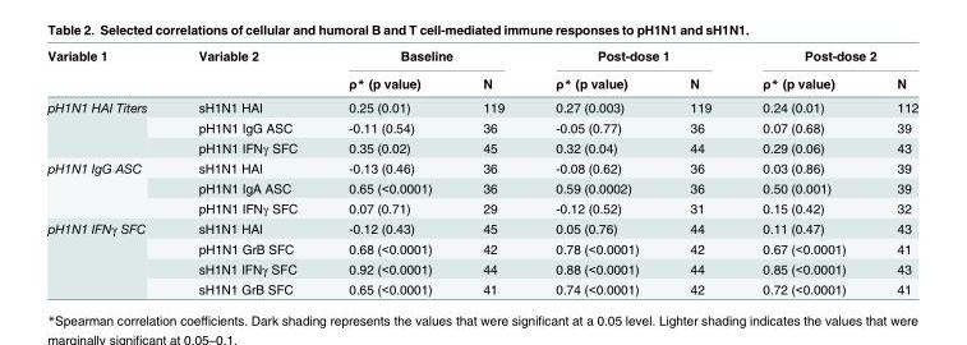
<table><thead><tr><td rowspan="2">Variable 1</td><td rowspan="2">Variable 2</td><td colspan="2">Baseline</td><td colspan="2">Post-dose 1</td><td colspan="2">Post-dose 2</td></tr><tr><td>ρ* (p value)</td><td>N</td><td>ρ* (p value)</td><td>N</td><td>ρ* (p value)</td><td>N</td></tr></thead><tbody><tr><td rowspan="3">pH1N1 HAI Titers</td><td>sH1N1 HAI</td><td>0.25 (0.01)</td><td>119</td><td>0.27 (0.003)</td><td>119</td><td>0.24 (0.01)</td><td>112</td></tr><tr><td>pH1N1 IgG ASC</td><td>-0.11 (0.54)</td><td>36</td><td>-0.05 (0.77)</td><td>36</td><td>0.07 (0.68)</td><td>39</td></tr><tr><td>pH1N1 IFNγ SFC</td><td>0.35 (0.02)</td><td>45</td><td>0.32 (0.04)</td><td>44</td><td>0.29 (0.06)</td><td>43</td></tr><tr><td rowspan="3">pH1N1 IgG ASC</td><td>sH1N1 HAI</td><td>-0.13 (0.46)</td><td>36</td><td>-0.08 (0.62)</td><td>36</td><td>0.03 (0.86)</td><td>39</td></tr><tr><td>pH1N1 IgA ASC</td><td>0.65 (&lt;0.0001)</td><td>36</td><td>0.59 (0.0002)</td><td>36</td><td>0.50 (0.001)</td><td>39</td></tr><tr><td>pH1N1 IFNγ SFC</td><td>0.07 (0.71)</td><td>29</td><td>-0.12 (0.52)</td><td>31</td><td>0.15 (0.42)</td><td>32</td></tr><tr><td rowspan="4">pH1N1 IFNγ SFC</td><td>sH1N1 HAI</td><td>-0.12 (0.43)</td><td>45</td><td>0.05 (0.76)</td><td>44</td><td>0.11 (0.47)</td><td>43</td></tr><tr><td>pH1N1 GrB SFC</td><td>0.68 (&lt;0.0001)</td><td>42</td><td>0.78 (&lt;0.0001)</td><td>42</td><td>0.67 (&lt;0.0001)</td><td>41</td></tr><tr><td>sH1N1 IFNγ SFC</td><td>0.92 (&lt;0.0001)</td><td>44</td><td>0.88 (&lt;0.0001)</td><td>44</td><td>0.85 (&lt;0.0001)</td><td>43</td></tr><tr><td>sH1N1 GrB SFC</td><td>0.65 (&lt;0.0001)</td><td>41</td><td>0.74 (&lt;0.0001)</td><td>42</td><td>0.72 (&lt;0.0001)</td><td>41</td></tr></tbody></table>